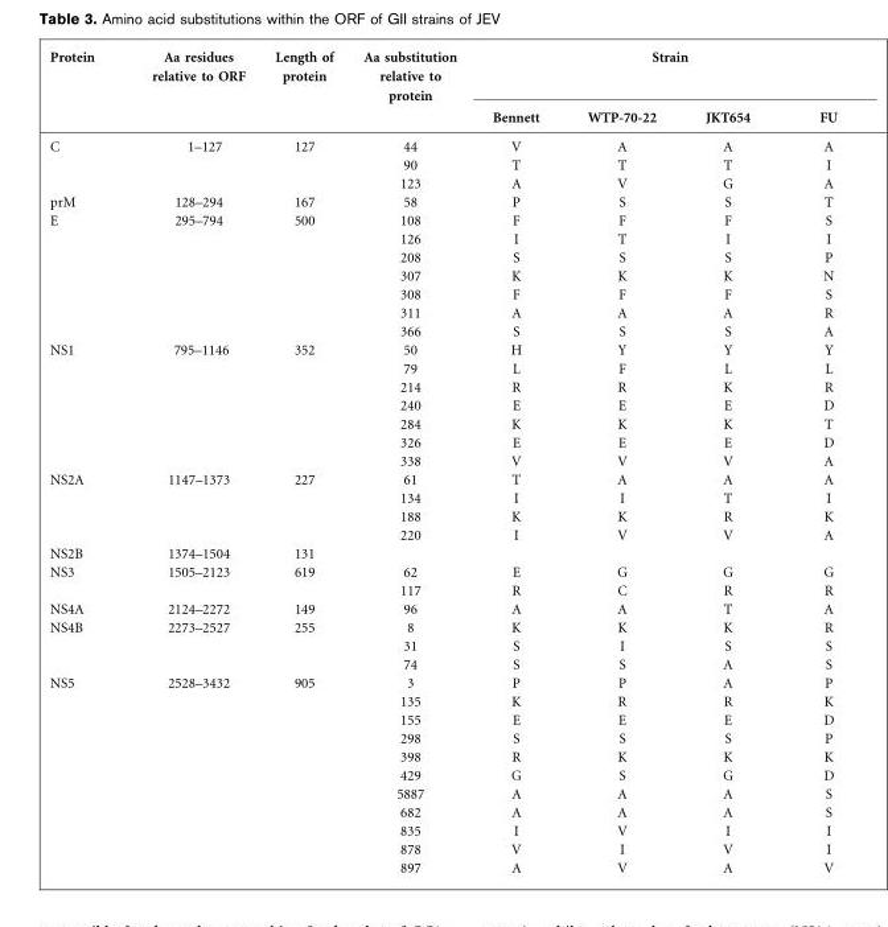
<table><thead><tr><td rowspan="2">Protein</td><td rowspan="2">Aa residues relative to ORF</td><td rowspan="2">Length of protein</td><td rowspan="2">Aa substitution relative to protein</td><td colspan="4">Strain</td></tr><tr><td>Bennett</td><td>WTP-70-22</td><td>JKT654</td><td>FU</td></tr></thead><tbody><tr><td rowspan="3">C</td><td>1–127</td><td>127</td><td>44</td><td>V</td><td>A</td><td>A</td><td>A</td></tr><tr><td></td><td></td><td>90</td><td>T</td><td>T</td><td>T</td><td>I</td></tr><tr><td></td><td></td><td>123</td><td>A</td><td>V</td><td>G</td><td>A</td></tr><tr><td>prM</td><td>128–294</td><td>167</td><td>58</td><td>P</td><td>S</td><td>S</td><td>T</td></tr><tr><td rowspan="7">E</td><td>295–794</td><td>500</td><td>108</td><td>F</td><td>F</td><td>F</td><td>S</td></tr><tr><td></td><td></td><td>126</td><td>I</td><td>T</td><td>I</td><td>I</td></tr><tr><td></td><td></td><td>208</td><td>S</td><td>S</td><td>S</td><td>P</td></tr><tr><td></td><td></td><td>307</td><td>K</td><td>K</td><td>K</td><td>N</td></tr><tr><td></td><td></td><td>308</td><td>F</td><td>F</td><td>F</td><td>S</td></tr><tr><td></td><td></td><td>311</td><td>A</td><td>A</td><td>A</td><td>R</td></tr><tr><td></td><td></td><td>366</td><td>S</td><td>S</td><td>S</td><td>A</td></tr><tr><td rowspan="7">NS1</td><td>795–1146</td><td>352</td><td>50</td><td>H</td><td>Y</td><td>Y</td><td>Y</td></tr><tr><td></td><td></td><td>79</td><td>L</td><td>F</td><td>L</td><td>L</td></tr><tr><td></td><td></td><td>214</td><td>R</td><td>R</td><td>K</td><td>R</td></tr><tr><td></td><td></td><td>240</td><td>E</td><td>E</td><td>E</td><td>D</td></tr><tr><td></td><td></td><td>284</td><td>K</td><td>K</td><td>K</td><td>T</td></tr><tr><td></td><td></td><td>326</td><td>E</td><td>E</td><td>E</td><td>D</td></tr><tr><td></td><td></td><td>338</td><td>V</td><td>V</td><td>V</td><td>A</td></tr><tr><td rowspan="4">NS2A</td><td>1147–1373</td><td>227</td><td>61</td><td>T</td><td>A</td><td>A</td><td>A</td></tr><tr><td></td><td></td><td>134</td><td>I</td><td>I</td><td>T</td><td>I</td></tr><tr><td></td><td></td><td>188</td><td>K</td><td>K</td><td>R</td><td>K</td></tr><tr><td></td><td></td><td>220</td><td>I</td><td>V</td><td>V</td><td>A</td></tr><tr><td>NS2B</td><td>1374–1504</td><td>131</td><td></td><td></td><td></td><td></td><td></td></tr><tr><td rowspan="2">NS3</td><td>1505–2123</td><td>619</td><td>62</td><td>E</td><td>G</td><td>G</td><td>G</td></tr><tr><td></td><td></td><td>117</td><td>R</td><td>C</td><td>R</td><td>R</td></tr><tr><td>NS4A</td><td>2124–2272</td><td>149</td><td>96</td><td>A</td><td>A</td><td>T</td><td>A</td></tr><tr><td rowspan="3">NS4B</td><td>2273–2527</td><td>255</td><td>8</td><td>K</td><td>K</td><td>K</td><td>R</td></tr><tr><td></td><td></td><td>31</td><td>S</td><td>I</td><td>S</td><td>S</td></tr><tr><td></td><td></td><td>74</td><td>S</td><td>S</td><td>A</td><td>S</td></tr><tr><td rowspan="11">NS5</td><td>2528–3432</td><td>905</td><td>3</td><td>P</td><td>P</td><td>A</td><td>P</td></tr><tr><td></td><td></td><td>135</td><td>K</td><td>R</td><td>R</td><td>K</td></tr><tr><td></td><td></td><td>155</td><td>E</td><td>E</td><td>E</td><td>D</td></tr><tr><td></td><td></td><td>298</td><td>S</td><td>S</td><td>S</td><td>P</td></tr><tr><td></td><td></td><td>398</td><td>R</td><td>K</td><td>K</td><td>K</td></tr><tr><td></td><td></td><td>429</td><td>G</td><td>S</td><td>G</td><td>D</td></tr><tr><td></td><td></td><td>5887</td><td>A</td><td>A</td><td>A</td><td>S</td></tr><tr><td></td><td></td><td>682</td><td>A</td><td>A</td><td>A</td><td>S</td></tr><tr><td></td><td></td><td>835</td><td>I</td><td>V</td><td>I</td><td>I</td></tr><tr><td></td><td></td><td>878</td><td>V</td><td>I</td><td>V</td><td>I</td></tr><tr><td></td><td></td><td>897</td><td>A</td><td>V</td><td>A</td><td>V</td></tr></tbody></table>